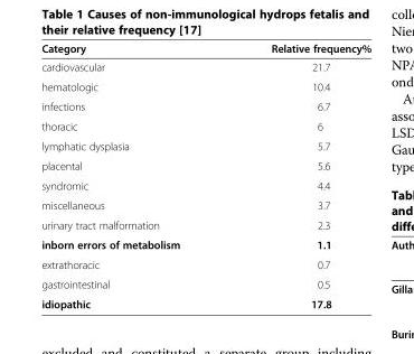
<table><thead><tr><td>Category</td><td>Relative frequency%</td></tr></thead><tbody><tr><td>cardiovascular</td><td>21.7</td></tr><tr><td>hematologic</td><td>10.4</td></tr><tr><td>infections</td><td>6.7</td></tr><tr><td>thoracic</td><td>6</td></tr><tr><td>lymphatic dysplasia</td><td>5.7</td></tr><tr><td>placental</td><td>5.6</td></tr><tr><td>syndromic</td><td>4.4</td></tr><tr><td>miscellaneous</td><td>3.7</td></tr><tr><td>urinary tract malformation</td><td>2.3</td></tr><tr><td>inborn errors of metabolism</td><td>1.1</td></tr><tr><td>extrathoracic</td><td>0.7</td></tr><tr><td>gastrointestinal</td><td>0.5</td></tr><tr><td>idiopathic</td><td>17.8</td></tr></tbody></table>